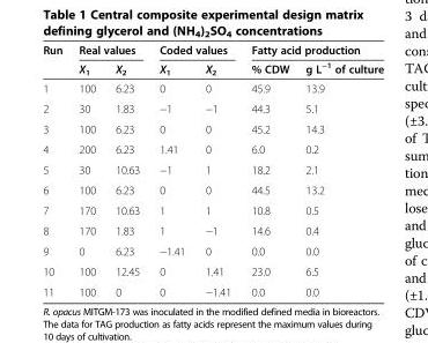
<table><thead><tr><td rowspan="2">Run</td><td colspan="2">Real values</td><td colspan="2">Coded values</td><td colspan="2">Fatty acid production</td></tr><tr><td>X<sub>1</sub></td><td>X<sub>2</sub></td><td>X<sub>1</sub></td><td>X<sub>2</sub></td><td>% CDW</td><td>g L<sup>−1</sup> of culture</td></tr></thead><tbody><tr><td>1</td><td>100</td><td>6.23</td><td>0</td><td>0</td><td>45.9</td><td>13.9</td></tr><tr><td>2</td><td>30</td><td>1.83</td><td>−1</td><td>−1</td><td>44.3</td><td>5.1</td></tr><tr><td>3</td><td>100</td><td>6.23</td><td>0</td><td>0</td><td>45.2</td><td>14.3</td></tr><tr><td>4</td><td>200</td><td>6.23</td><td>1.41</td><td>0</td><td>6.0</td><td>0.2</td></tr><tr><td>5</td><td>30</td><td>10.63</td><td>−1</td><td>1</td><td>18.2</td><td>2.1</td></tr><tr><td>6</td><td>100</td><td>6.23</td><td>0</td><td>0</td><td>44.5</td><td>13.2</td></tr><tr><td>7</td><td>170</td><td>10.63</td><td>1</td><td>1</td><td>10.8</td><td>0.5</td></tr><tr><td>8</td><td>170</td><td>1.83</td><td>1</td><td>−1</td><td>14.6</td><td>0.4</td></tr><tr><td>9</td><td>0</td><td>6.23</td><td>−1.41</td><td>0</td><td>0.0</td><td>0.0</td></tr><tr><td>10</td><td>100</td><td>12.45</td><td>0</td><td>1.41</td><td>23.0</td><td>6.5</td></tr><tr><td>11</td><td>100</td><td>0</td><td>0</td><td>−1.41</td><td>0.0</td><td>0.0</td></tr></tbody></table>